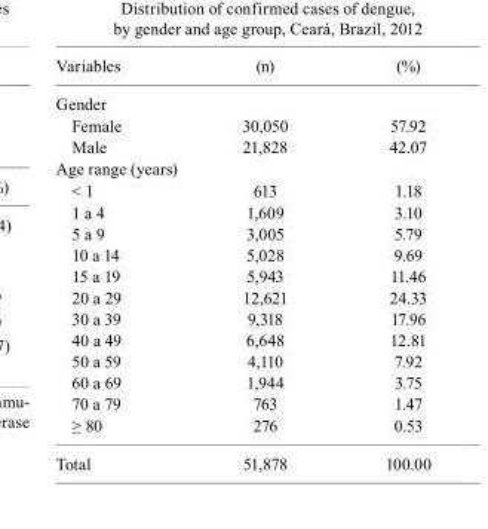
<table><tbody><tr><td>Variables</td><td>(n)</td><td>(%)</td></tr><tr><td colspan="3">Gender</td></tr><tr><td>Female</td><td>30,050</td><td>57.92</td></tr><tr><td>Male</td><td>21,828</td><td>42.07</td></tr><tr><td colspan="3">Age range (years)</td></tr><tr><td>&lt; 1</td><td>613</td><td>1.18</td></tr><tr><td>1 a 4</td><td>1,609</td><td>3.10</td></tr><tr><td>5 a 9</td><td>3,005</td><td>5.79</td></tr><tr><td>10 a 14</td><td>5,028</td><td>9.69</td></tr><tr><td>15 a 19</td><td>5,943</td><td>11.46</td></tr><tr><td>20 a 29</td><td>12,621</td><td>24.33</td></tr><tr><td>30 a 39</td><td>9,318</td><td>17.96</td></tr><tr><td>40 a 49</td><td>6,648</td><td>12.81</td></tr><tr><td>50 a 59</td><td>4,110</td><td>7.92</td></tr><tr><td>60 a 69</td><td>1,944</td><td>3.75</td></tr><tr><td>70 a 79</td><td>763</td><td>1.47</td></tr><tr><td>≥ 80</td><td>276</td><td>0.53</td></tr><tr><td>Total</td><td>51,878</td><td>100.00</td></tr></tbody></table>